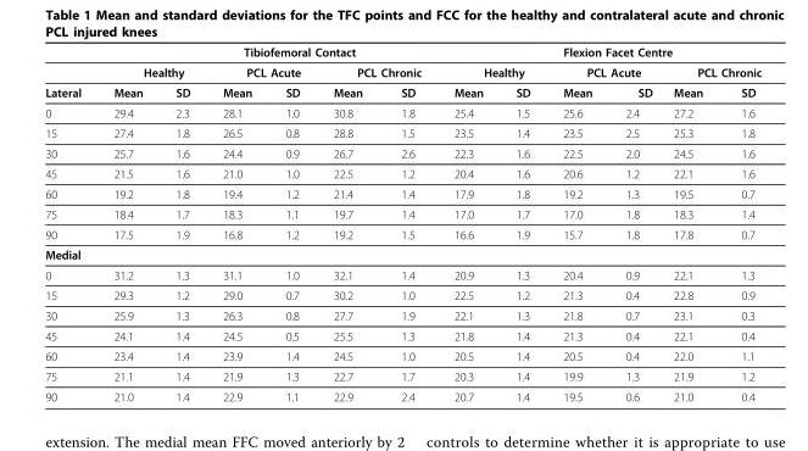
<table><thead><tr><td colspan="9">Tibiofemoral Contact</td><td colspan="4">Flexion Facet Centre</td></tr><tr><td rowspan="2">Lateral</td><td colspan="2">Healthy</td><td colspan="2">PCL Acute</td><td colspan="2">PCL Chronic</td><td colspan="2">Healthy</td><td colspan="2">PCL Acute</td><td colspan="2">PCL Chronic</td></tr><tr><td>Mean</td><td>SD</td><td>Mean</td><td>SD</td><td>Mean</td><td>SD</td><td>Mean</td><td>SD</td><td>Mean</td><td>SD</td><td>Mean</td><td>SD</td></tr></thead><tbody><tr><td>0</td><td>29.4</td><td>2.3</td><td>28.1</td><td>1.0</td><td>30.8</td><td>1.8</td><td>25.4</td><td>1.5</td><td>25.6</td><td>2.4</td><td>27.2</td><td>1.6</td></tr><tr><td>15</td><td>27.4</td><td>1.8</td><td>26.5</td><td>0.8</td><td>28.8</td><td>1.5</td><td>23.5</td><td>1.4</td><td>23.5</td><td>2.5</td><td>25.3</td><td>1.8</td></tr><tr><td>30</td><td>25.7</td><td>1.6</td><td>24.4</td><td>0.9</td><td>26.7</td><td>2.6</td><td>22.3</td><td>1.6</td><td>22.5</td><td>2.0</td><td>24.5</td><td>1.6</td></tr><tr><td>45</td><td>21.5</td><td>1.6</td><td>21.0</td><td>1.0</td><td>22.5</td><td>1.2</td><td>20.4</td><td>1.6</td><td>20.6</td><td>1.2</td><td>22.1</td><td>1.6</td></tr><tr><td>60</td><td>19.2</td><td>1.8</td><td>19.4</td><td>1.2</td><td>21.4</td><td>1.4</td><td>17.9</td><td>1.8</td><td>19.2</td><td>1.3</td><td>19.5</td><td>0.7</td></tr><tr><td>75</td><td>18.4</td><td>1.7</td><td>18.3</td><td>1.1</td><td>19.7</td><td>1.4</td><td>17.0</td><td>1.7</td><td>17.0</td><td>1.8</td><td>18.3</td><td>1.4</td></tr><tr><td>90</td><td>17.5</td><td>1.9</td><td>16.8</td><td>1.2</td><td>19.2</td><td>1.5</td><td>16.6</td><td>1.9</td><td>15.7</td><td>1.8</td><td>17.8</td><td>0.7</td></tr><tr><td colspan="13">Medial</td></tr><tr><td>0</td><td>31.2</td><td>1.3</td><td>31.1</td><td>1.0</td><td>32.1</td><td>1.4</td><td>20.9</td><td>1.3</td><td>20.4</td><td>0.9</td><td>22.1</td><td>1.3</td></tr><tr><td>15</td><td>29.3</td><td>1.2</td><td>29.0</td><td>0.7</td><td>30.2</td><td>1.0</td><td>22.5</td><td>1.2</td><td>21.3</td><td>0.4</td><td>22.8</td><td>0.9</td></tr><tr><td>30</td><td>25.9</td><td>1.3</td><td>26.3</td><td>0.8</td><td>27.7</td><td>1.9</td><td>22.1</td><td>1.3</td><td>21.8</td><td>0.7</td><td>23.1</td><td>0.3</td></tr><tr><td>45</td><td>24.1</td><td>1.4</td><td>24.5</td><td>0.5</td><td>25.5</td><td>1.3</td><td>21.8</td><td>1.4</td><td>21.3</td><td>0.4</td><td>22.1</td><td>0.4</td></tr><tr><td>60</td><td>23.4</td><td>1.4</td><td>23.9</td><td>1.4</td><td>24.5</td><td>1.0</td><td>20.5</td><td>1.4</td><td>20.5</td><td>0.4</td><td>22.0</td><td>1.1</td></tr><tr><td>75</td><td>21.1</td><td>1.4</td><td>21.9</td><td>1.3</td><td>22.7</td><td>1.7</td><td>20.3</td><td>1.4</td><td>19.9</td><td>1.3</td><td>21.9</td><td>1.2</td></tr><tr><td>90</td><td>21.0</td><td>1.4</td><td>22.9</td><td>1.1</td><td>22.9</td><td>2.4</td><td>20.7</td><td>1.4</td><td>19.5</td><td>0.6</td><td>21.0</td><td>0.4</td></tr></tbody></table>